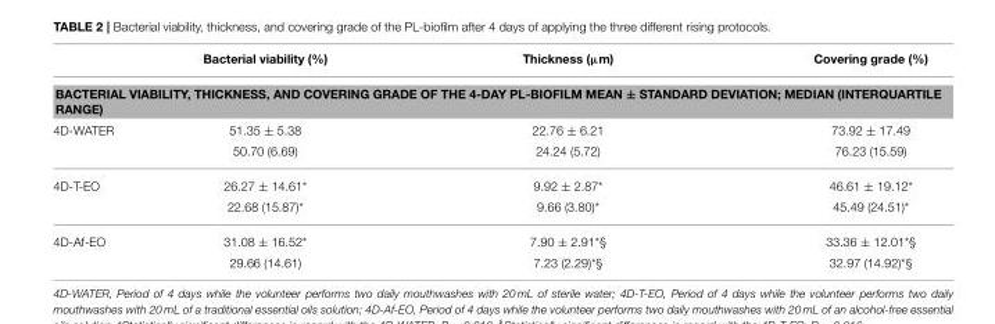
<table><thead><tr><td></td><td>Bacterial viability (%)</td><td>Thickness (µm)</td><td>Covering grade (%)</td></tr></thead><tbody><tr><td colspan="4">BACTERIAL VIABILITY, THICKNESS, AND COVERING GRADE OF THE 4-DAY PL-BIOFILM MEAN ± STANDARD DEVIATION; MEDIAN (INTERQUARTILE RANGE)</td></tr><tr><td rowspan="2">4D-WATER</td><td>51.35 ± 5.38</td><td>22.76 ± 6.21</td><td>73.92 ± 17.49</td></tr><tr><td>50.70 (6.69)</td><td>24.24 (5.72)</td><td>76.23 (15.59)</td></tr><tr><td rowspan="2">4D-T-EO</td><td>26.27 ± 14.61*</td><td>9.92 ± 2.87*</td><td>46.61 ± 19.12*</td></tr><tr><td>22.68 (15.87)*</td><td>9.66 (3.80)*</td><td>45.49 (24.51)*</td></tr><tr><td rowspan="2">4D-Af-EO</td><td>31.08 ± 16.52*</td><td>7.90 ± 2.91<sup>*§</sup></td><td>33.36 ± 12.01<sup>*§</sup></td></tr><tr><td>29.66 (14.61)</td><td>7.23 (2.29)<sup>*§</sup></td><td>32.97 (14.92)<sup>*§</sup></td></tr></tbody></table>